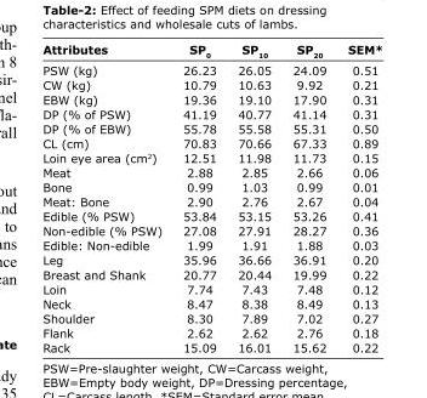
<table><thead><tr><td>Attributes</td><td>SP<sub>0</sub></td><td>SP<sub>10</sub></td><td>SP<sub>20</sub></td><td>SEM*</td></tr></thead><tbody><tr><td>PSW (kg)</td><td>26.23</td><td>26.05</td><td>24.09</td><td>0.51</td></tr><tr><td>CW (kg)</td><td>10.79</td><td>10.63</td><td>9.92</td><td>0.21</td></tr><tr><td>EBW (kg)</td><td>19.36</td><td>19.10</td><td>17.90</td><td>0.31</td></tr><tr><td>DP (% of PSW)</td><td>41.19</td><td>40.77</td><td>41.14</td><td>0.31</td></tr><tr><td>DP (% of EBW)</td><td>55.78</td><td>55.58</td><td>55.31</td><td>0.50</td></tr><tr><td>CL (cm)</td><td>70.83</td><td>70.66</td><td>67.33</td><td>0.89</td></tr><tr><td>Loin eye area (cm<sup>2</sup>)</td><td>12.51</td><td>11.98</td><td>11.73</td><td>0.15</td></tr><tr><td>Meat</td><td>2.88</td><td>2.85</td><td>2.66</td><td>0.06</td></tr><tr><td>Bone</td><td>0.99</td><td>1.03</td><td>0.99</td><td>0.01</td></tr><tr><td>Meat: Bone</td><td>2.90</td><td>2.76</td><td>2.67</td><td>0.04</td></tr><tr><td>Edible (% PSW)</td><td>53.84</td><td>53.15</td><td>53.26</td><td>0.41</td></tr><tr><td>Non-edible (% PSW)</td><td>27.08</td><td>27.91</td><td>28.27</td><td>0.36</td></tr><tr><td>Edible: Non-edible</td><td>1.99</td><td>1.91</td><td>1.88</td><td>0.03</td></tr><tr><td>Leg</td><td>35.96</td><td>36.66</td><td>36.91</td><td>0.20</td></tr><tr><td>Breast and Shank</td><td>20.77</td><td>20.44</td><td>19.99</td><td>0.22</td></tr><tr><td>Loin</td><td>7.74</td><td>7.43</td><td>7.48</td><td>0.12</td></tr><tr><td>Neck</td><td>8.47</td><td>8.38</td><td>8.49</td><td>0.13</td></tr><tr><td>Shoulder</td><td>8.30</td><td>7.89</td><td>7.02</td><td>0.27</td></tr><tr><td>Flank</td><td>2.62</td><td>2.62</td><td>2.76</td><td>0.18</td></tr><tr><td>Rack</td><td>15.09</td><td>16.01</td><td>15.62</td><td>0.22</td></tr></tbody></table>